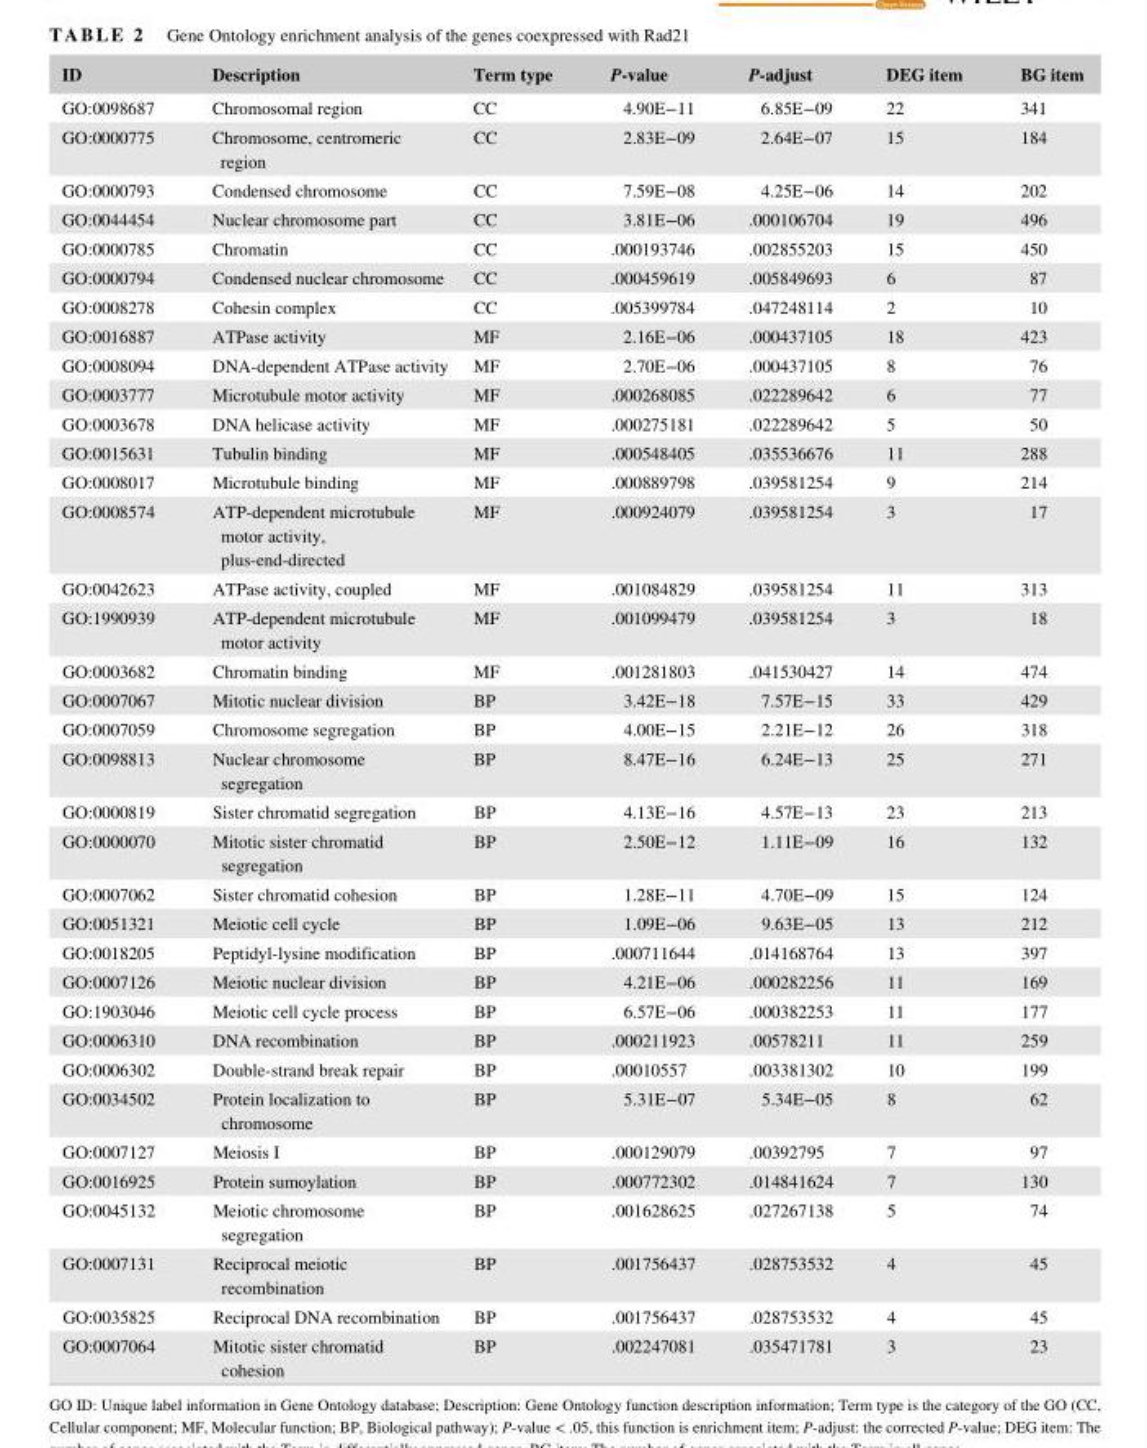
<table><thead><tr><td>ID</td><td>Description</td><td>Term type</td><td>P- value</td><td>P- adjust</td><td>DEG item</td><td>BG item</td></tr></thead><tbody><tr><td>GO:0098687</td><td>Chromosomal region</td><td>CC</td><td>4.90E−11</td><td>6.85E−09</td><td>22</td><td>341</td></tr><tr><td>GO:0000775</td><td>Chromosome, centromeric region</td><td>CC</td><td>2.83E−09</td><td>2.64E−07</td><td>15</td><td>184</td></tr><tr><td>GO:0000793</td><td>Condensed chromosome</td><td>CC</td><td>7.59E−08</td><td>4.25E−06</td><td>14</td><td>202</td></tr><tr><td>GO:0044454</td><td>Nuclear chromosome part</td><td>CC</td><td>3.81E−06</td><td>.000106704</td><td>19</td><td>496</td></tr><tr><td>GO:0000785</td><td>Chromatin</td><td>CC</td><td>.000193746</td><td>.002855203</td><td>15</td><td>450</td></tr><tr><td>GO:0000794</td><td>Condensed nuclear chromosome</td><td>CC</td><td>.000459619</td><td>.005849693</td><td>6</td><td>87</td></tr><tr><td>GO:0008278</td><td>Cohesin complex</td><td>CC</td><td>.005399784</td><td>.047248114</td><td>2</td><td>10</td></tr><tr><td>GO:0016887</td><td>ATPase activity</td><td>MF</td><td>2.16E−06</td><td>.000437105</td><td>18</td><td>423</td></tr><tr><td>GO:0008094</td><td>DNA- dependent ATPase activity</td><td>MF</td><td>2.70E−06</td><td>.000437105</td><td>8</td><td>76</td></tr><tr><td>GO:0003777</td><td>Microtubule motor activity</td><td>MF</td><td>.000268085</td><td>.022289642</td><td>6</td><td>77</td></tr><tr><td>GO:0003678</td><td>DNA helicase activity</td><td>MF</td><td>.000275181</td><td>.022289642</td><td>5</td><td>50</td></tr><tr><td>GO:0015631</td><td>Tubulin binding</td><td>MF</td><td>.000548405</td><td>.035536676</td><td>11</td><td>288</td></tr><tr><td>GO:0008017</td><td>Microtubule binding</td><td>MF</td><td>.000889798</td><td>.039581254</td><td>9</td><td>214</td></tr><tr><td>GO:0008574</td><td>ATP- dependent microtubule motor activity, plus- end- directed</td><td>MF</td><td>.000924079</td><td>.039581254</td><td>3</td><td>17</td></tr><tr><td>GO:0042623</td><td>ATPase activity, coupled</td><td>MF</td><td>.001084829</td><td>.039581254</td><td>11</td><td>313</td></tr><tr><td>GO:1990939</td><td>ATP- dependent microtubule motor activity</td><td>MF</td><td>.001099479</td><td>.039581254</td><td>3</td><td>18</td></tr><tr><td>GO:0003682</td><td>Chromatin binding</td><td>MF</td><td>.001281803</td><td>.041530427</td><td>14</td><td>474</td></tr><tr><td>GO:0007067</td><td>Mitotic nuclear division</td><td>BP</td><td>3.42E−18</td><td>7.57E−15</td><td>33</td><td>429</td></tr><tr><td>GO:0007059</td><td>Chromosome segregation</td><td>BP</td><td>4.00E−15</td><td>2.21E−12</td><td>26</td><td>318</td></tr><tr><td>GO:0098813</td><td>Nuclear chromosome segregation</td><td>BP</td><td>8.47E−16</td><td>6.24E−13</td><td>25</td><td>271</td></tr><tr><td>GO:0000819</td><td>Sister chromatid segregation</td><td>BP</td><td>4.13E−16</td><td>4.57E−13</td><td>23</td><td>213</td></tr><tr><td>GO:0000070</td><td>Mitotic sister chromatid segregation</td><td>BP</td><td>2.50E−12</td><td>1.11E−09</td><td>16</td><td>132</td></tr><tr><td>GO:0007062</td><td>Sister chromatid cohesion</td><td>BP</td><td>1.28E−11</td><td>4.70E−09</td><td>15</td><td>124</td></tr><tr><td>GO:0051321</td><td>Meiotic cell cycle</td><td>BP</td><td>1.09E−06</td><td>9.63E−05</td><td>13</td><td>212</td></tr><tr><td>GO:0018205</td><td>Peptidyl- lysine modification</td><td>BP</td><td>.000711644</td><td>.014168764</td><td>13</td><td>397</td></tr><tr><td>GO:0007126</td><td>Meiotic nuclear division</td><td>BP</td><td>4.21E−06</td><td>.000282256</td><td>11</td><td>169</td></tr><tr><td>GO:1903046</td><td>Meiotic cell cycle process</td><td>BP</td><td>6.57E−06</td><td>.000382253</td><td>11</td><td>177</td></tr><tr><td>GO:0006310</td><td>DNA recombination</td><td>BP</td><td>.000211923</td><td>.00578211</td><td>11</td><td>259</td></tr><tr><td>GO:0006302</td><td>Double- strand break repair</td><td>BP</td><td>.00010557</td><td>.003381302</td><td>10</td><td>199</td></tr><tr><td>GO:0034502</td><td>Protein localization to chromosome</td><td>BP</td><td>5.31E−07</td><td>5.34E−05</td><td>8</td><td>62</td></tr><tr><td>GO:0007127</td><td>Meiosis I</td><td>BP</td><td>.000129079</td><td>.00392795</td><td>7</td><td>97</td></tr><tr><td>GO:0016925</td><td>Protein sumoylation</td><td>BP</td><td>.000772302</td><td>.014841624</td><td>7</td><td>130</td></tr><tr><td>GO:0045132</td><td>Meiotic chromosome segregation</td><td>BP</td><td>.001628625</td><td>.027267138</td><td>5</td><td>74</td></tr><tr><td>GO:0007131</td><td>Reciprocal meiotic recombination</td><td>BP</td><td>.001756437</td><td>.028753532</td><td>4</td><td>45</td></tr><tr><td>GO:0035825</td><td>Reciprocal DNA recombination</td><td>BP</td><td>.001756437</td><td>.028753532</td><td>4</td><td>45</td></tr><tr><td>GO:0007064</td><td>Mitotic sister chromatid cohesion</td><td>BP</td><td>.002247081</td><td>.035471781</td><td>3</td><td>23</td></tr></tbody></table>